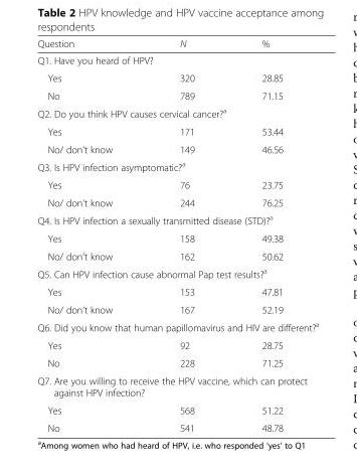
<table><thead><tr><td>Question</td><td>N</td><td>%</td></tr></thead><tbody><tr><td colspan="3">Q1. Have you heard of HPV?</td></tr><tr><td>Yes</td><td>320</td><td>28.85</td></tr><tr><td>No</td><td>789</td><td>71.15</td></tr><tr><td colspan="3">Q2. Do you think HPV causes cervical cancer?<sup>a</sup></td></tr><tr><td>Yes</td><td>171</td><td>53.44</td></tr><tr><td>No/ don’t know</td><td>149</td><td>46.56</td></tr><tr><td colspan="3">Q3. Is HPV infection asymptomatic?<sup>a</sup></td></tr><tr><td>Yes</td><td>76</td><td>23.75</td></tr><tr><td>No/ don’t know</td><td>244</td><td>76.25</td></tr><tr><td colspan="3">Q4. Is HPV infection a sexually transmitted disease (STD)?<sup>a</sup></td></tr><tr><td>Yes</td><td>158</td><td>49.38</td></tr><tr><td>No/ don’t know</td><td>162</td><td>50.62</td></tr><tr><td colspan="3">Q5. Can HPV infection cause abnormal Pap test results?<sup>a</sup></td></tr><tr><td>Yes</td><td>153</td><td>47.81</td></tr><tr><td>No/ don’t know</td><td>167</td><td>52.19</td></tr><tr><td colspan="3">Q6. Did you know that human papillomavirus and HIV are different?<sup>a</sup></td></tr><tr><td>Yes</td><td>92</td><td>28.75</td></tr><tr><td>No</td><td>228</td><td>71.25</td></tr><tr><td colspan="3">Q7. Are you willing to receive the HPV vaccine, which can protect against HPV infection?</td></tr><tr><td>Yes</td><td>568</td><td>51.22</td></tr><tr><td>No</td><td>541</td><td>48.78</td></tr></tbody></table>